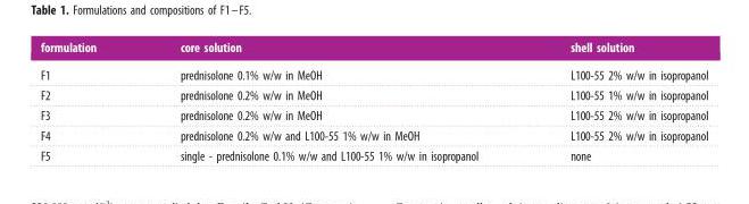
<table><thead><tr><td>formulation</td><td>core solution</td><td>shell solution</td></tr></thead><tbody><tr><td>F1</td><td>prednisolone 0.1% w/w in MeOH</td><td>L100-55 2% w/w in isopropanol</td></tr><tr><td>F2</td><td>prednisolone 0.2% w/w in MeOH</td><td>L100-55 1% w/w in isopropanol</td></tr><tr><td>F3</td><td>prednisolone 0.2% w/w in MeOH</td><td>L100-55 2% w/w in isopropanol</td></tr><tr><td>F4</td><td>prednisolone 0.2% w/w and L100-55 1% w/w in MeOH</td><td>L100-55 2% w/w in isopropanol</td></tr><tr><td>F5</td><td>single - prednisolone 0.1% w/w and L100-55 1% w/w in isopropanol</td><td>none</td></tr></tbody></table>